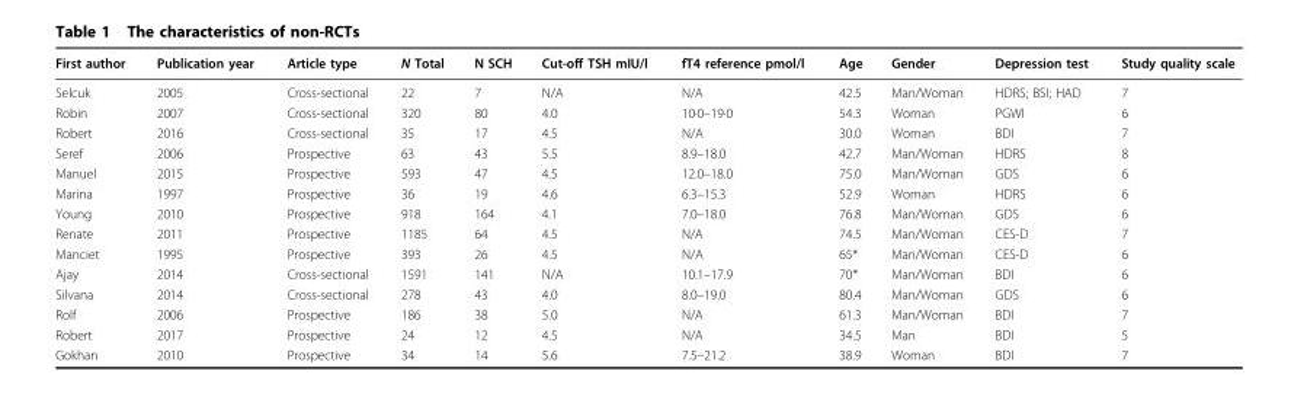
<table><thead><tr><td>First author</td><td>Publication year</td><td>Article type</td><td>N Total</td><td>N SCH</td><td>Cut-off TSH mIU/l</td><td>fT4 reference pmol/l</td><td>Age</td><td>Gender</td><td>Depression test</td><td>Study quality scale</td></tr></thead><tbody><tr><td>Selcuk</td><td>2005</td><td>Cross-sectional</td><td>22</td><td>7</td><td>N/A</td><td>N/A</td><td>42.5</td><td>Man/Woman</td><td>HDRS; BSI; HAD</td><td>7</td></tr><tr><td>Robin</td><td>2007</td><td>Cross-sectional</td><td>320</td><td>80</td><td>4.0</td><td>10·0–19·0</td><td>54.3</td><td>Woman</td><td>PGWI</td><td>6</td></tr><tr><td>Robert</td><td>2016</td><td>Cross-sectional</td><td>35</td><td>17</td><td>4.5</td><td>N/A</td><td>30.0</td><td>Woman</td><td>BDI</td><td>7</td></tr><tr><td>Seref</td><td>2006</td><td>Prospective</td><td>63</td><td>43</td><td>5.5</td><td>8.9–18.0</td><td>42.7</td><td>Man/Woman</td><td>HDRS</td><td>8</td></tr><tr><td>Manuel</td><td>2015</td><td>Prospective</td><td>593</td><td>47</td><td>4.5</td><td>12.0–18.0</td><td>75.0</td><td>Man/Woman</td><td>GDS</td><td>6</td></tr><tr><td>Marina</td><td>1997</td><td>Prospective</td><td>36</td><td>19</td><td>4.6</td><td>6.3–15.3</td><td>52.9</td><td>Woman</td><td>HDRS</td><td>6</td></tr><tr><td>Young</td><td>2010</td><td>Prospective</td><td>918</td><td>164</td><td>4.1</td><td>7.0–18.0</td><td>76.8</td><td>Man/Woman</td><td>GDS</td><td>6</td></tr><tr><td>Renate</td><td>2011</td><td>Prospective</td><td>1185</td><td>64</td><td>4.5</td><td>N/A</td><td>74.5</td><td>Man/Woman</td><td>CES-D</td><td>7</td></tr><tr><td>Manciet</td><td>1995</td><td>Prospective</td><td>393</td><td>26</td><td>4.5</td><td>N/A</td><td>65*</td><td>Man/Woman</td><td>CES-D</td><td>6</td></tr><tr><td>Ajay</td><td>2014</td><td>Cross-sectional</td><td>1591</td><td>141</td><td>N/A</td><td>10.1–17.9</td><td>70*</td><td>Man/Woman</td><td>BDI</td><td>6</td></tr><tr><td>Silvana</td><td>2014</td><td>Cross-sectional</td><td>278</td><td>43</td><td>4.0</td><td>8.0–19.0</td><td>80.4</td><td>Man/Woman</td><td>GDS</td><td>6</td></tr><tr><td>Rolf</td><td>2006</td><td>Prospective</td><td>186</td><td>38</td><td>5.0</td><td>N/A</td><td>61.3</td><td>Man/Woman</td><td>BDI</td><td>7</td></tr><tr><td>Robert</td><td>2017</td><td>Prospective</td><td>24</td><td>12</td><td>4.5</td><td>N/A</td><td>34.5</td><td>Man</td><td>BDI</td><td>5</td></tr><tr><td>Gokhan</td><td>2010</td><td>Prospective</td><td>34</td><td>14</td><td>5.6</td><td>7.5–21.2</td><td>38.9</td><td>Woman</td><td>BDI</td><td>7</td></tr></tbody></table>